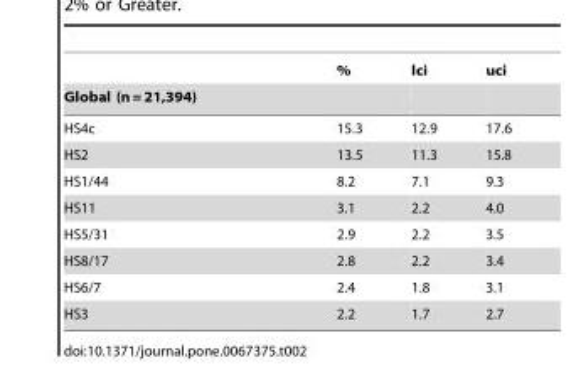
<table><thead><tr><td rowspan="2">Global (n = 21,394)</td><td rowspan="2">%</td><td rowspan="2">lci</td><td rowspan="2">uci</td></tr><tr></tr></thead><tbody><tr><td>HS4c</td><td>15.3</td><td>12.9</td><td>17.6</td></tr><tr><td>HS2</td><td>13.5</td><td>11.3</td><td>15.8</td></tr><tr><td>HS1/44</td><td>8.2</td><td>7.1</td><td>9.3</td></tr><tr><td>HS11</td><td>3.1</td><td>2.2</td><td>4.0</td></tr><tr><td>HS5/31</td><td>2.9</td><td>2.2</td><td>3.5</td></tr><tr><td>HS8/17</td><td>2.8</td><td>2.2</td><td>3.4</td></tr><tr><td>HS6/7</td><td>2.4</td><td>1.8</td><td>3.1</td></tr><tr><td>HS3</td><td>2.2</td><td>1.7</td><td>2.7</td></tr></tbody></table>